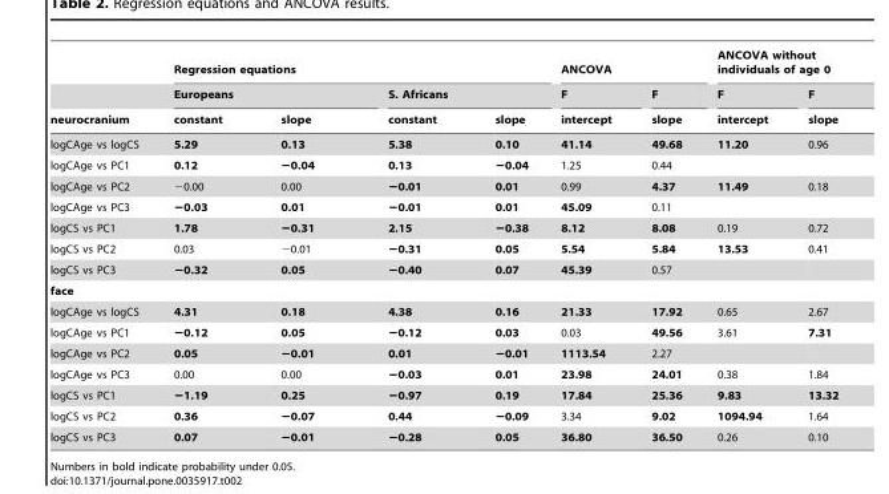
<table><thead><tr><td rowspan="3">neurocranium</td><td colspan="4">Regression equations</td><td colspan="2">ANCOVA</td><td colspan="2">ANCOVA without individuals of age 0</td></tr><tr><td colspan="2">Europeans</td><td colspan="2">S. Africans</td><td rowspan="2">F intercept</td><td rowspan="2">F slope</td><td rowspan="2">F intercept</td><td rowspan="2">F slope</td></tr><tr><td>constant</td><td>slope</td><td>constant</td><td>slope</td></tr></thead><tbody><tr><td>logCAge vs logCS</td><td>5.29</td><td>0.13</td><td>5.38</td><td>0.10</td><td>41.14</td><td>49.68</td><td>11.20</td><td>0.96</td></tr><tr><td>logCAge vs PC1</td><td>0.12</td><td>−0.04</td><td>0.13</td><td>−0.04</td><td>1.25</td><td>0.44</td><td></td><td></td></tr><tr><td>logCAge vs PC2</td><td>−0.00</td><td>0.00</td><td>−0.01</td><td>0.01</td><td>0.99</td><td>4.37</td><td>11.49</td><td>0.18</td></tr><tr><td>logCAge vs PC3</td><td>−0.03</td><td>0.01</td><td>−0.01</td><td>0.01</td><td>45.09</td><td>0.11</td><td></td><td></td></tr><tr><td>logCS vs PC1</td><td>1.78</td><td>−0.31</td><td>2.15</td><td>−0.38</td><td>8.12</td><td>8.08</td><td>0.19</td><td>0.72</td></tr><tr><td>logCS vs PC2</td><td>0.03</td><td>−0.01</td><td>−0.31</td><td>0.05</td><td>5.54</td><td>5.84</td><td>13.53</td><td>0.41</td></tr><tr><td>logCS vs PC3</td><td>−0.32</td><td>0.05</td><td>−0.40</td><td>0.07</td><td>45.39</td><td>0.57</td><td></td><td></td></tr><tr><td colspan="9">face</td></tr><tr><td>logCAge vs logCS</td><td>4.31</td><td>0.18</td><td>4.38</td><td>0.16</td><td>21.33</td><td>17.92</td><td>0.65</td><td>2.67</td></tr><tr><td>logCAge vs PC1</td><td>−0.12</td><td>0.05</td><td>−0.12</td><td>0.03</td><td>0.03</td><td>49.56</td><td>3.61</td><td>7.31</td></tr><tr><td>logCAge vs PC2</td><td>0.05</td><td>−0.01</td><td>0.01</td><td>−0.01</td><td>1113.54</td><td>2.27</td><td></td><td></td></tr><tr><td>logCAge vs PC3</td><td>0.00</td><td>0.00</td><td>−0.03</td><td>0.01</td><td>23.98</td><td>24.01</td><td>0.38</td><td>1.84</td></tr><tr><td>logCS vs PC1</td><td>−1.19</td><td>0.25</td><td>−0.97</td><td>0.19</td><td>17.84</td><td>25.36</td><td>9.83</td><td>13.32</td></tr><tr><td>logCS vs PC2</td><td>0.36</td><td>−0.07</td><td>0.44</td><td>−0.09</td><td>3.34</td><td>9.02</td><td>1094.94</td><td>1.64</td></tr><tr><td>logCS vs PC3</td><td>0.07</td><td>−0.01</td><td>−0.28</td><td>0.05</td><td>36.80</td><td>36.50</td><td>0.26</td><td>0.10</td></tr></tbody></table>